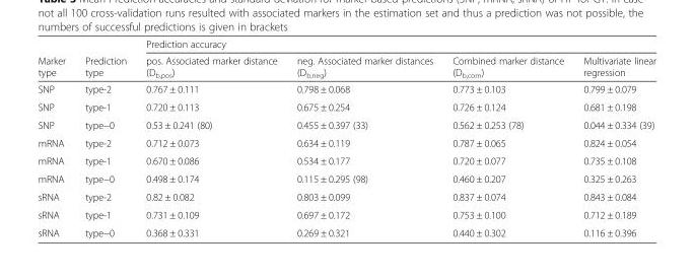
<table><thead><tr><td rowspan="2">Marker type</td><td rowspan="2">Prediction type</td><td colspan="4">Prediction accuracy</td></tr><tr><td>pos. Associated marker distance (D<sub>b,pos</sub>)</td><td>neg. Associated marker distances (D<sub>b,neg</sub>)</td><td>Combined marker distance (D<sub>b,com</sub>)</td><td>Multivariate linear regression</td></tr></thead><tbody><tr><td>SNP</td><td>type-2</td><td>0.767 ± 0.111</td><td>0.798 ± 0.068</td><td>0.773 ± 0.103</td><td>0.799 ± 0.079</td></tr><tr><td>SNP</td><td>type-1</td><td>0.720 ± 0.113</td><td>0.675 ± 0.254</td><td>0.726 ± 0.124</td><td>0.681 ± 0.198</td></tr><tr><td>SNP</td><td>type−0</td><td>0.53 ± 0.241 (80)</td><td>0.455 ± 0.397 (33)</td><td>0.562 ± 0.253 (78)</td><td>0.044 ± 0.334 (39)</td></tr><tr><td>mRNA</td><td>type-2</td><td>0.712 ± 0.073</td><td>0.634 ± 0.119</td><td>0.787 ± 0.065</td><td>0.824 ± 0.054</td></tr><tr><td>mRNA</td><td>type-1</td><td>0.670 ± 0.086</td><td>0.534 ± 0.177</td><td>0.720 ± 0.077</td><td>0.735 ± 0.108</td></tr><tr><td>mRNA</td><td>type−0</td><td>0.498 ± 0.174</td><td>0.115 ± 0.295 (98)</td><td>0.460 ± 0.207</td><td>0.325 ± 0.263</td></tr><tr><td>sRNA</td><td>type-2</td><td>0.82 ± 0.082</td><td>0.803 ± 0.099</td><td>0.837 ± 0.074</td><td>0.843 ± 0.084</td></tr><tr><td>sRNA</td><td>type-1</td><td>0.731 ± 0.109</td><td>0.697 ± 0.172</td><td>0.753 ± 0.100</td><td>0.712 ± 0.189</td></tr><tr><td>sRNA</td><td>type−0</td><td>0.368 ± 0.331</td><td>0.269 ± 0.321</td><td>0.440 ± 0.302</td><td>0.116 ± 0.396</td></tr></tbody></table>